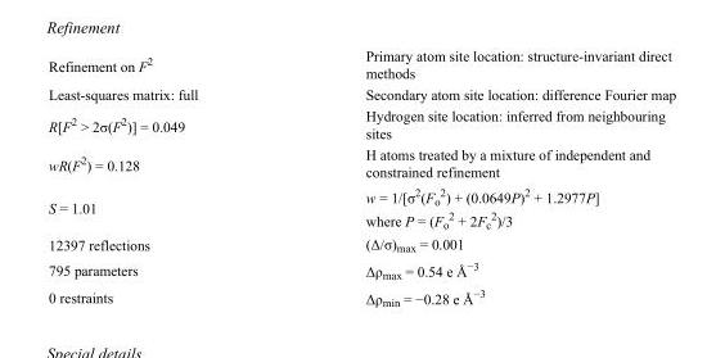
<table><tbody><tr><td>Refinement on F<sup>2</sup></td><td>Primary atom site location: structure-invariant direct methods</td></tr><tr><td>Least-squares matrix: full</td><td>Secondary atom site location: difference Fourier map</td></tr><tr><td>R[F<sup>2</sup> &gt; 2σ(F<sup>2</sup>)] = 0.049</td><td>Hydrogen site location: inferred from neighbouring sites</td></tr><tr><td>wR(F<sup>2</sup>) = 0.128</td><td>H atoms treated by a mixture of independent and constrained refinement</td></tr><tr><td>S = 1.01</td><td>w = 1/[σ<sup>2</sup>(F<sub>o</sub> <sup>2</sup>) + (0.0649P)<sup>2</sup> + 1.2977P] where P = (F<sub>o</sub> <sup>2</sup> + 2F<sub>c</sub> <sup>2</sup>)/3</td></tr><tr><td>12397 reflections</td><td>(Δ/σ)<sub>max</sub> = 0.001</td></tr><tr><td>795 parameters</td><td>Δρ<sub>max</sub> = 0.54 e Å<sup>−3</sup></td></tr><tr><td>0 restraints</td><td>Δρ<sub>min</sub> = −0.28 e Å<sup>−3</sup></td></tr></tbody></table>